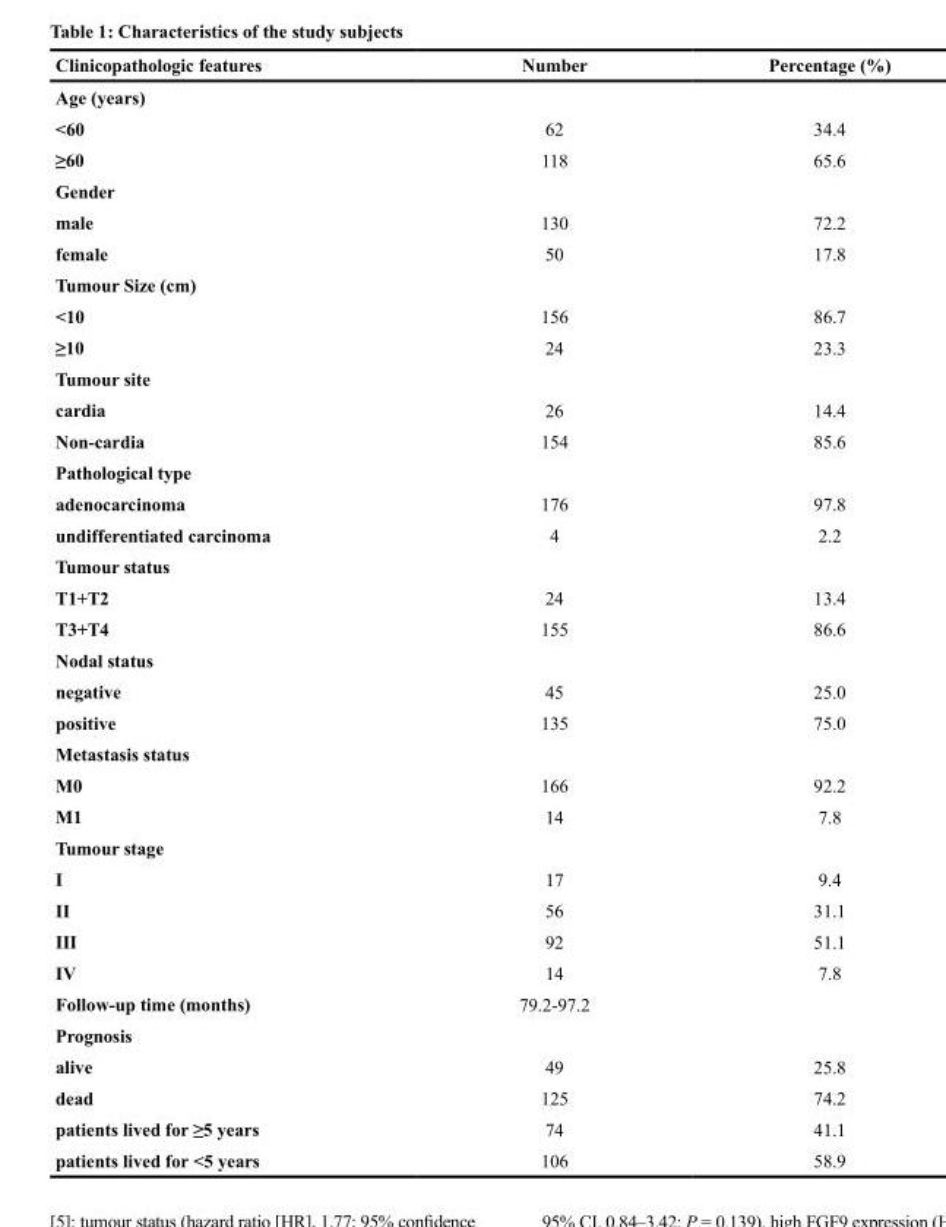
<table><thead><tr><td>Clinicopathologic features</td><td>Number</td><td>Percentage (%)</td></tr></thead><tbody><tr><td colspan="3">Age (years)</td></tr><tr><td>&lt;60</td><td>62</td><td>34.4</td></tr><tr><td>≥60</td><td>118</td><td>65.6</td></tr><tr><td colspan="3">Gender</td></tr><tr><td>male</td><td>130</td><td>72.2</td></tr><tr><td>female</td><td>50</td><td>17.8</td></tr><tr><td colspan="3">Tumour Size (cm)</td></tr><tr><td>&lt;10</td><td>156</td><td>86.7</td></tr><tr><td>≥10</td><td>24</td><td>23.3</td></tr><tr><td colspan="3">Tumour site</td></tr><tr><td>cardia</td><td>26</td><td>14.4</td></tr><tr><td>Non-cardia</td><td>154</td><td>85.6</td></tr><tr><td colspan="3">Pathological type</td></tr><tr><td>adenocarcinoma</td><td>176</td><td>97.8</td></tr><tr><td>undifferentiated carcinoma</td><td>4</td><td>2.2</td></tr><tr><td colspan="3">Tumour status</td></tr><tr><td>T1+T2</td><td>24</td><td>13.4</td></tr><tr><td>T3+T4</td><td>155</td><td>86.6</td></tr><tr><td colspan="3">Nodal status</td></tr><tr><td>negative</td><td>45</td><td>25.0</td></tr><tr><td>positive</td><td>135</td><td>75.0</td></tr><tr><td colspan="3">Metastasis status</td></tr><tr><td>M0</td><td>166</td><td>92.2</td></tr><tr><td>M1</td><td>14</td><td>7.8</td></tr><tr><td colspan="3">Tumour stage</td></tr><tr><td>I</td><td>17</td><td>9.4</td></tr><tr><td>II</td><td>56</td><td>31.1</td></tr><tr><td>III</td><td>92</td><td>51.1</td></tr><tr><td>IV</td><td>14</td><td>7.8</td></tr><tr><td>Follow-up time (months)</td><td>79.2-97.2</td><td></td></tr><tr><td colspan="3">Prognosis</td></tr><tr><td>alive</td><td>49</td><td>25.8</td></tr><tr><td>dead</td><td>125</td><td>74.2</td></tr><tr><td>patients lived for ≥5 years</td><td>74</td><td>41.1</td></tr><tr><td>patients lived for &lt;5 years</td><td>106</td><td>58.9</td></tr></tbody></table>